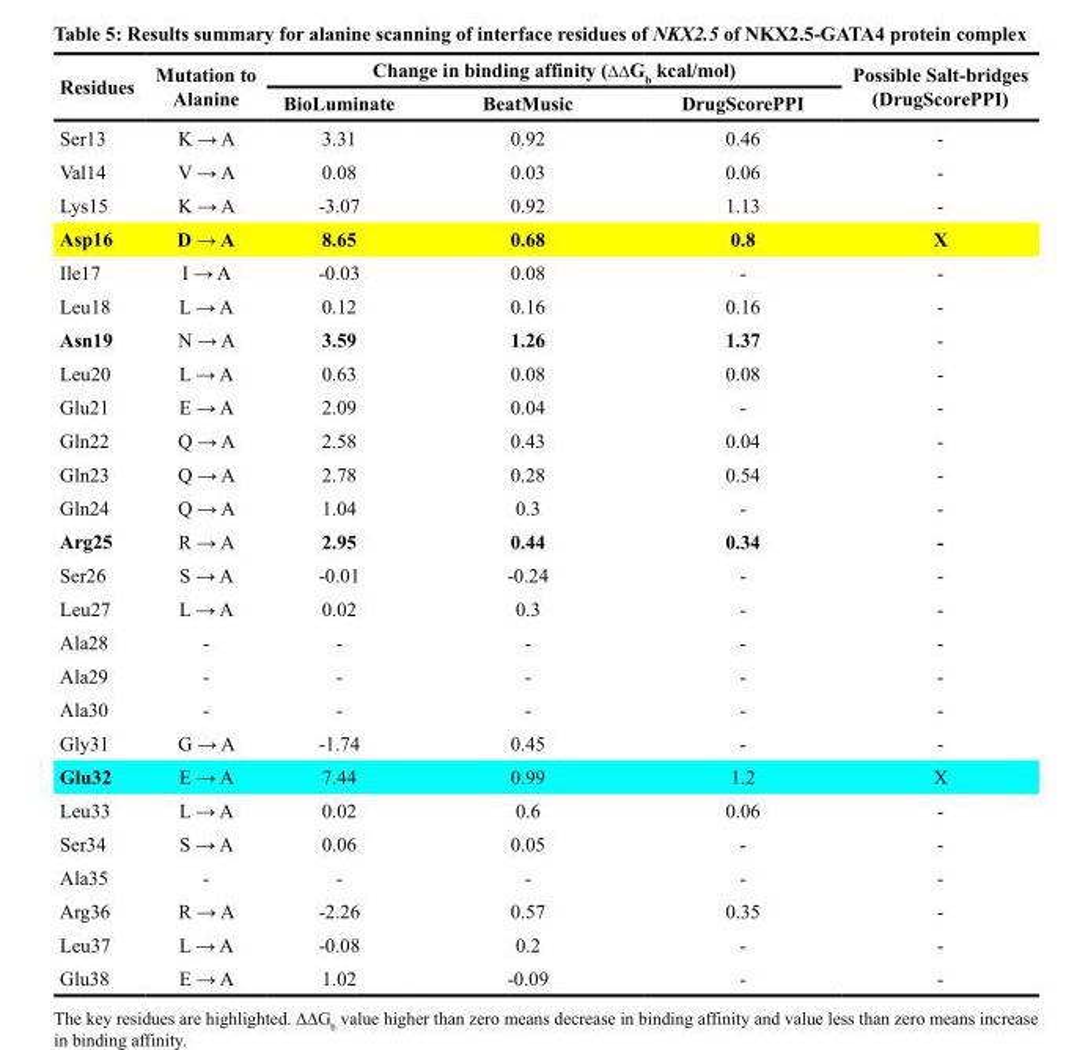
<table><thead><tr><td rowspan="2">Residues</td><td rowspan="2">Mutation to Alanine</td><td colspan="3">Change in binding affinity (∆∆G<sub>b</sub> kcal/mol)</td><td rowspan="2">Possible Salt-bridges (DrugScorePPI)</td></tr><tr><td>BioLuminate</td><td>BeatMusic</td><td>DrugScorePPI</td></tr></thead><tbody><tr><td>Ser13</td><td>K → A</td><td>3.31</td><td>0.92</td><td>0.46</td><td>-</td></tr><tr><td>Val14</td><td>V → A</td><td>0.08</td><td>0.03</td><td>0.06</td><td>-</td></tr><tr><td>Lys15</td><td>K → A</td><td>-3.07</td><td>0.92</td><td>1.13</td><td>-</td></tr><tr><td>Asp16</td><td>D → A</td><td>8.65</td><td>0.68</td><td>0.8</td><td>X</td></tr><tr><td>Ile17</td><td>I → A</td><td>-0.03</td><td>0.08</td><td>-</td><td>-</td></tr><tr><td>Leu18</td><td>L → A</td><td>0.12</td><td>0.16</td><td>0.16</td><td>-</td></tr><tr><td>Asn19</td><td>N → A</td><td>3.59</td><td>1.26</td><td>1.37</td><td>-</td></tr><tr><td>Leu20</td><td>L → A</td><td>0.63</td><td>0.08</td><td>0.08</td><td>-</td></tr><tr><td>Glu21</td><td>E → A</td><td>2.09</td><td>0.04</td><td>-</td><td>-</td></tr><tr><td>Gln22</td><td>Q → A</td><td>2.58</td><td>0.43</td><td>0.04</td><td>-</td></tr><tr><td>Gln23</td><td>Q → A</td><td>2.78</td><td>0.28</td><td>0.54</td><td>-</td></tr><tr><td>Gln24</td><td>Q → A</td><td>1.04</td><td>0.3</td><td>-</td><td>-</td></tr><tr><td>Arg25</td><td>R → A</td><td>2.95</td><td>0.44</td><td>0.34</td><td>-</td></tr><tr><td>Ser26</td><td>S → A</td><td>-0.01</td><td>-0.24</td><td>-</td><td>-</td></tr><tr><td>Leu27</td><td>L → A</td><td>0.02</td><td>0.3</td><td>-</td><td>-</td></tr><tr><td>Ala28</td><td>-</td><td>-</td><td>-</td><td>-</td><td>-</td></tr><tr><td>Ala29</td><td>-</td><td>-</td><td>-</td><td>-</td><td>-</td></tr><tr><td>Ala30</td><td>-</td><td>-</td><td>-</td><td>-</td><td>-</td></tr><tr><td>Gly31</td><td>G → A</td><td>-1.74</td><td>0.45</td><td>-</td><td>-</td></tr><tr><td>Glu32</td><td>E → A</td><td>7.44</td><td>0.99</td><td>1.2</td><td>X</td></tr><tr><td>Leu33</td><td>L → A</td><td>0.02</td><td>0.6</td><td>0.06</td><td>-</td></tr><tr><td>Ser34</td><td>S → A</td><td>0.06</td><td>0.05</td><td>-</td><td>-</td></tr><tr><td>Ala35</td><td>-</td><td>-</td><td>-</td><td>-</td><td>-</td></tr><tr><td>Arg36</td><td>R → A</td><td>-2.26</td><td>0.57</td><td>0.35</td><td>-</td></tr><tr><td>Leu37</td><td>L → A</td><td>-0.08</td><td>0.2</td><td>-</td><td>-</td></tr><tr><td>Glu38</td><td>E → A</td><td>1.02</td><td>-0.09</td><td>-</td><td>-</td></tr></tbody></table>